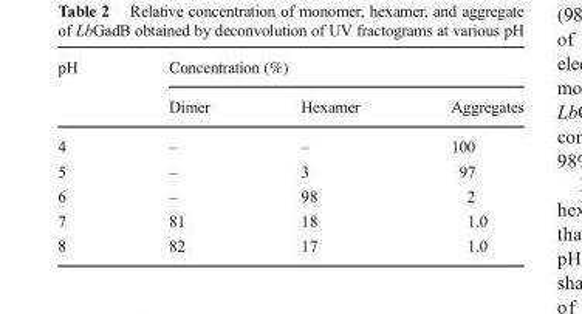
<table><thead><tr><td rowspan="2">pH</td><td colspan="3">Concentration (%)</td></tr><tr><td>Dimer</td><td>Hexamer</td><td>Aggregates</td></tr></thead><tbody><tr><td>4</td><td>–</td><td>–</td><td>100</td></tr><tr><td>5</td><td>–</td><td>3</td><td>97</td></tr><tr><td>6</td><td>–</td><td>98</td><td>2</td></tr><tr><td>7</td><td>81</td><td>18</td><td>1.0</td></tr><tr><td>8</td><td>82</td><td>17</td><td>1.0</td></tr></tbody></table>